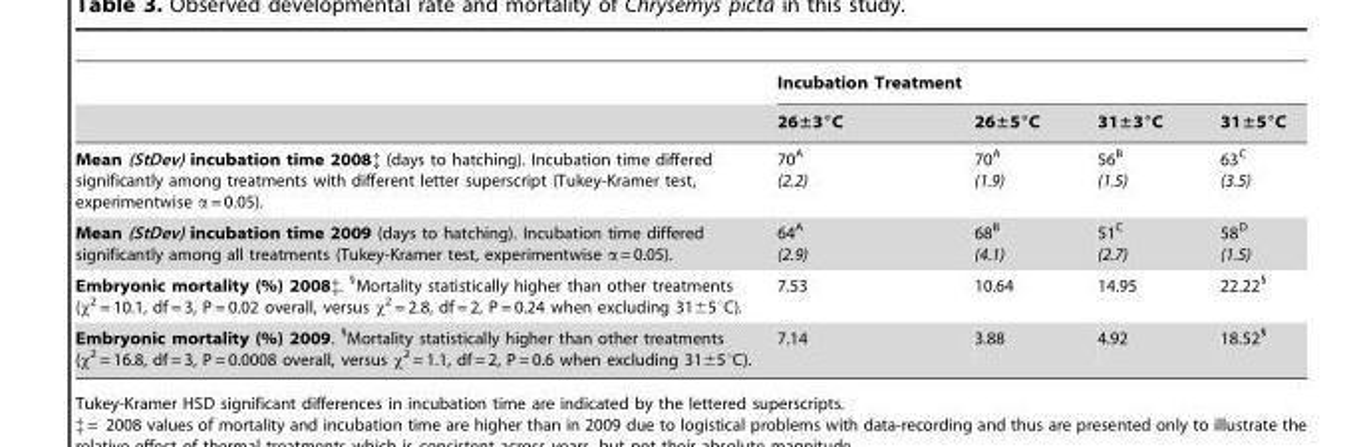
<table><thead><tr><td rowspan="2"></td><td colspan="4">Incubation Treatment</td></tr><tr><td>26±3°C</td><td>26±5°C</td><td>31±3°C</td><td>31±5°C</td></tr></thead><tbody><tr><td>Mean (StDev) incubation time 2008‡ (days to hatching). Incubation time differed significantly among treatments with different letter superscript (Tukey-Kramer test, experimentwise α = 0.05).</td><td>70<sup>A</sup> (2.2)</td><td>70<sup>A</sup> (1.9)</td><td>56<sup>B</sup> (1.5)</td><td>63<sup>C</sup> (3.5)</td></tr><tr><td>Mean (StDev) incubation time 2009 (days to hatching). Incubation time differed significantly among all treatments (Tukey-Kramer test, experimentwise α = 0.05).</td><td>64<sup>A</sup> (2.9)</td><td>68<sup>B</sup> (4.1)</td><td>51<sup>C</sup> (2.7)</td><td>58<sup>D</sup> (1.5)</td></tr><tr><td>Embryonic mortality (%) 2008‡. <sup>§</sup>Mortality statistically higher than other treatments (χ<sup>2</sup> = 10.1, df = 3, P = 0.02 overall, versus χ<sup>2</sup> = 2.8, df = 2, P = 0.24 when excluding 31±5°C).</td><td>7.53</td><td>10.64</td><td>14.95</td><td>22.22<sup>§</sup></td></tr><tr><td>Embryonic mortality (%) 2009. <sup>§</sup>Mortality statistically higher than other treatments (χ<sup>2</sup> = 16.8, df = 3, P = 0.0008 overall, versus χ<sup>2</sup> = 1.1, df = 2, P = 0.6 when excluding 31±5°C).</td><td>7.14</td><td>3.88</td><td>4.92</td><td>18.52<sup>§</sup></td></tr></tbody></table>